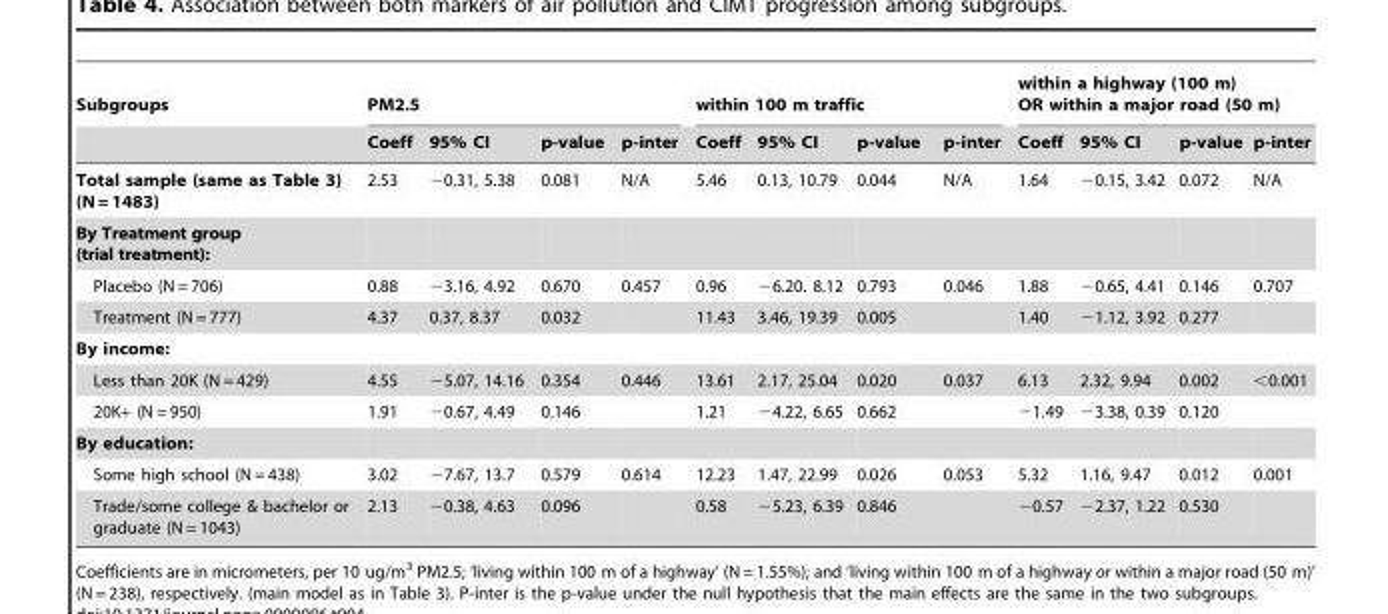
<table><thead><tr><td rowspan="2">Subgroups</td><td colspan="4">PM2.5</td><td colspan="4">within 100 m traffic</td><td colspan="4">within a highway (100 m) OR within a major road (50 m)</td></tr><tr><td>Coeff</td><td>95% CI</td><td>p-value</td><td>p-inter</td><td>Coeff</td><td>95% CI</td><td>p-value</td><td>p-inter</td><td>Coeff</td><td>95% CI</td><td>p-value</td><td>p-inter</td></tr></thead><tbody><tr><td>Total sample (same as Table 3) (N = 1483)</td><td>2.53</td><td>−0.31, 5.38</td><td>0.081</td><td>N/A</td><td>5.46</td><td>0.13, 10.79</td><td>0.044</td><td>N/A</td><td>1.64</td><td>−0.15, 3.42</td><td>0.072</td><td>N/A</td></tr><tr><td colspan="13">By Treatment group (trial treatment):</td></tr><tr><td>Placebo (N = 706)</td><td>0.88</td><td>−3.16, 4.92</td><td>0.670</td><td>0.457</td><td>0.96</td><td>−6.20. 8.12</td><td>0.793</td><td>0.046</td><td>1.88</td><td>−0.65, 4.41</td><td>0.146</td><td>0.707</td></tr><tr><td>Treatment (N = 777)</td><td>4.37</td><td>0.37, 8.37</td><td>0.032</td><td></td><td>11.43</td><td>3.46, 19.39</td><td>0.005</td><td></td><td>1.40</td><td>−1.12, 3.92</td><td>0.277</td><td></td></tr><tr><td colspan="13">By income:</td></tr><tr><td>Less than 20K (N = 429)</td><td>4.55</td><td>−5.07, 14.16</td><td>0.354</td><td>0.446</td><td>13.61</td><td>2.17, 25.04</td><td>0.020</td><td>0.037</td><td>6.13</td><td>2.32, 9.94</td><td>0.002</td><td>&lt;0.001</td></tr><tr><td>20K+ (N = 950)</td><td>1.91</td><td>−0.67, 4.49</td><td>0.146</td><td></td><td>1.21</td><td>−4.22, 6.65</td><td>0.662</td><td></td><td>−1.49</td><td>−3.38, 0.39</td><td>0.120</td><td></td></tr><tr><td colspan="13">By education:</td></tr><tr><td>Some high school (N = 438)</td><td>3.02</td><td>−7.67, 13.7</td><td>0.579</td><td>0.614</td><td>12.23</td><td>1.47, 22.99</td><td>0.026</td><td>0.053</td><td>5.32</td><td>1.16, 9.47</td><td>0.012</td><td>0.001</td></tr><tr><td>Trade/some college &amp; bachelor or graduate (N = 1043)</td><td>2.13</td><td>−0.38, 4.63</td><td>0.096</td><td></td><td>0.58</td><td>−5.23, 6.39</td><td>0.846</td><td></td><td>−0.57</td><td>−2.37, 1.22</td><td>0.530</td><td></td></tr></tbody></table>